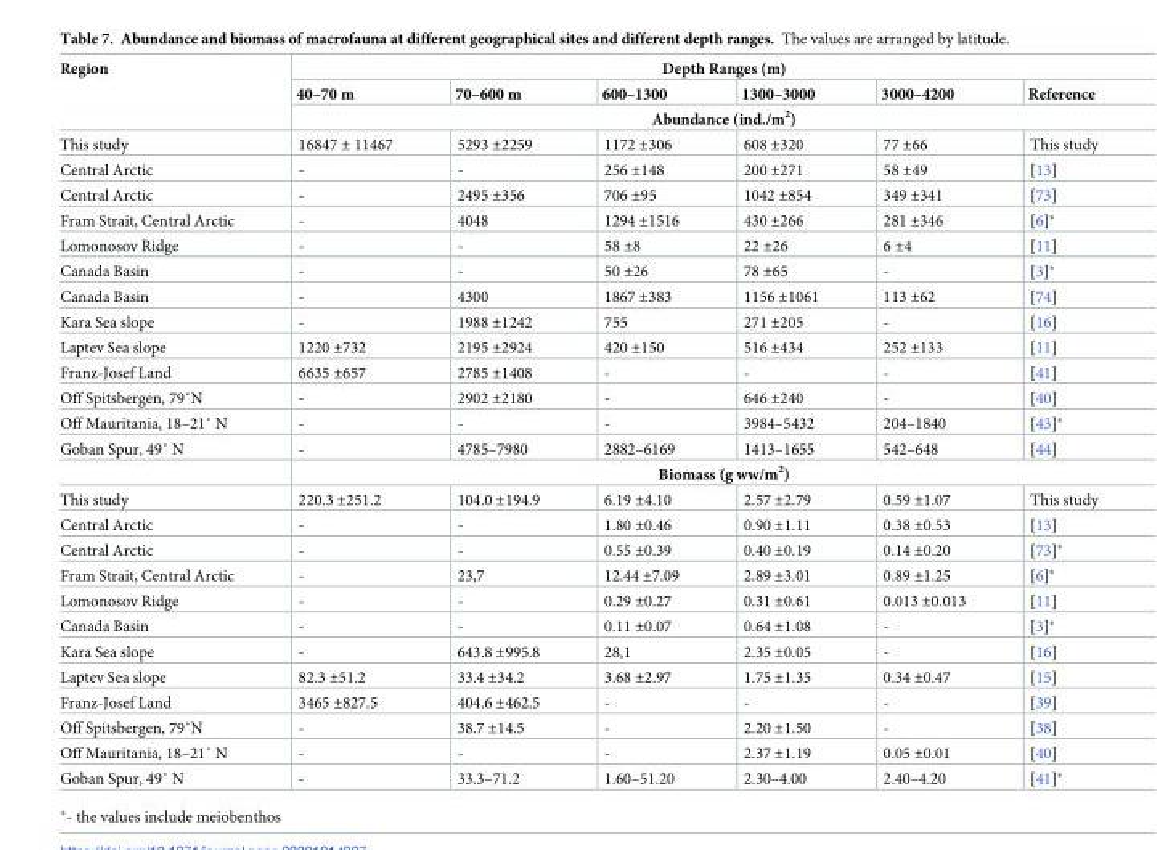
<table><thead><tr><td rowspan="3">Region</td><td colspan="6">Depth Ranges (m)</td></tr><tr><td>40–70 m</td><td>70–600 m</td><td>600–1300</td><td>1300–3000</td><td>3000–4200</td><td>Reference</td></tr><tr><td colspan="6">Abundance (ind./m<sup>2</sup>)</td></tr></thead><tbody><tr><td>This study</td><td>16847 ± 11467</td><td>5293 ±2259</td><td>1172 ±306</td><td>608 ±320</td><td>77 ±66</td><td>This study</td></tr><tr><td>Central Arctic</td><td>-</td><td>-</td><td>256 ±148</td><td>200 ±271</td><td>58 ±49</td><td>[13]</td></tr><tr><td>Central Arctic</td><td>-</td><td>2495 ±356</td><td>706 ±95</td><td>1042 ±854</td><td>349 ±341</td><td>[73]</td></tr><tr><td>Fram Strait, Central Arctic</td><td>-</td><td>4048</td><td>1294 ±1516</td><td>430 ±266</td><td>281 ±346</td><td>[6]*</td></tr><tr><td>Lomonosov Ridge</td><td>-</td><td>-</td><td>58 ±8</td><td>22 ±26</td><td>6 ±4</td><td>[11]</td></tr><tr><td>Canada Basin</td><td>-</td><td>-</td><td>50 ±26</td><td>78 ±65</td><td>-</td><td>[3]*</td></tr><tr><td>Canada Basin</td><td>-</td><td>4300</td><td>1867 ±383</td><td>1156 ±1061</td><td>113 ±62</td><td>[74]</td></tr><tr><td>Kara Sea slope</td><td>-</td><td>1988 ±1242</td><td>755</td><td>271 ±205</td><td>-</td><td>[16]</td></tr><tr><td>Laptev Sea slope</td><td>1220 ±732</td><td>2195 ±2924</td><td>420 ±150</td><td>516 ±434</td><td>252 ±133</td><td>[11]</td></tr><tr><td>Franz-Josef Land</td><td>6635 ±657</td><td>2785 ±1408</td><td>-</td><td>-</td><td>-</td><td>[41]</td></tr><tr><td>Off Spitsbergen, 79˚N</td><td>-</td><td>2902 ±2180</td><td>-</td><td>646 ±240</td><td>-</td><td>[40]</td></tr><tr><td>Off Mauritania, 18–21˚ N</td><td>-</td><td>-</td><td>-</td><td>3984–5432</td><td>204–1840</td><td>[43]*</td></tr><tr><td rowspan="2">Goban Spur, 49˚ N</td><td>-</td><td>4785–7980</td><td>2882–6169</td><td>1413–1655</td><td>542–648</td><td>[44]</td></tr><tr><td colspan="6">Biomass (g ww/m<sup>2</sup>)</td></tr><tr><td>This study</td><td>220.3 ±251.2</td><td>104.0 ±194.9</td><td>6.19 ±4.10</td><td>2.57 ±2.79</td><td>0.59 ±1.07</td><td>This study</td></tr><tr><td>Central Arctic</td><td>-</td><td>-</td><td>1.80 ±0.46</td><td>0.90 ±1.11</td><td>0.38 ±0.53</td><td>[13]</td></tr><tr><td>Central Arctic</td><td>-</td><td>-</td><td>0.55 ±0.39</td><td>0.40 ±0.19</td><td>0.14 ±0.20</td><td>[73]*</td></tr><tr><td>Fram Strait, Central Arctic</td><td>-</td><td>23,7</td><td>12.44 ±7.09</td><td>2.89 ±3.01</td><td>0.89 ±1.25</td><td>[6]*</td></tr><tr><td>Lomonosov Ridge</td><td>-</td><td>-</td><td>0.29 ±0.27</td><td>0.31 ±0.61</td><td>0.013 ±0.013</td><td>[11]</td></tr><tr><td>Canada Basin</td><td>-</td><td>-</td><td>0.11 ±0.07</td><td>0.64 ±1.08</td><td>-</td><td>[3]*</td></tr><tr><td>Kara Sea slope</td><td>-</td><td>643.8 ±995.8</td><td>28,1</td><td>2.35 ±0.05</td><td>-</td><td>[16]</td></tr><tr><td>Laptev Sea slope</td><td>82.3 ±51.2</td><td>33.4 ±34.2</td><td>3.68 ±2.97</td><td>1.75 ±1.35</td><td>0.34 ±0.47</td><td>[15]</td></tr><tr><td>Franz-Josef Land</td><td>3465 ±827.5</td><td>404.6 ±462.5</td><td>-</td><td>-</td><td>-</td><td>[39]</td></tr><tr><td>Off Spitsbergen, 79˚N</td><td>-</td><td>38.7 ±14.5</td><td>-</td><td>2.20 ±1.50</td><td>-</td><td>[38]</td></tr><tr><td>Off Mauritania, 18–21˚ N</td><td>-</td><td>-</td><td>-</td><td>2.37 ±1.19</td><td>0.05 ±0.01</td><td>[40]</td></tr><tr><td>Goban Spur, 49˚ N</td><td>-</td><td>33.3–71.2</td><td>1.60–51.20</td><td>2.30–4.00</td><td>2.40–4.20</td><td>[41]*</td></tr></tbody></table>